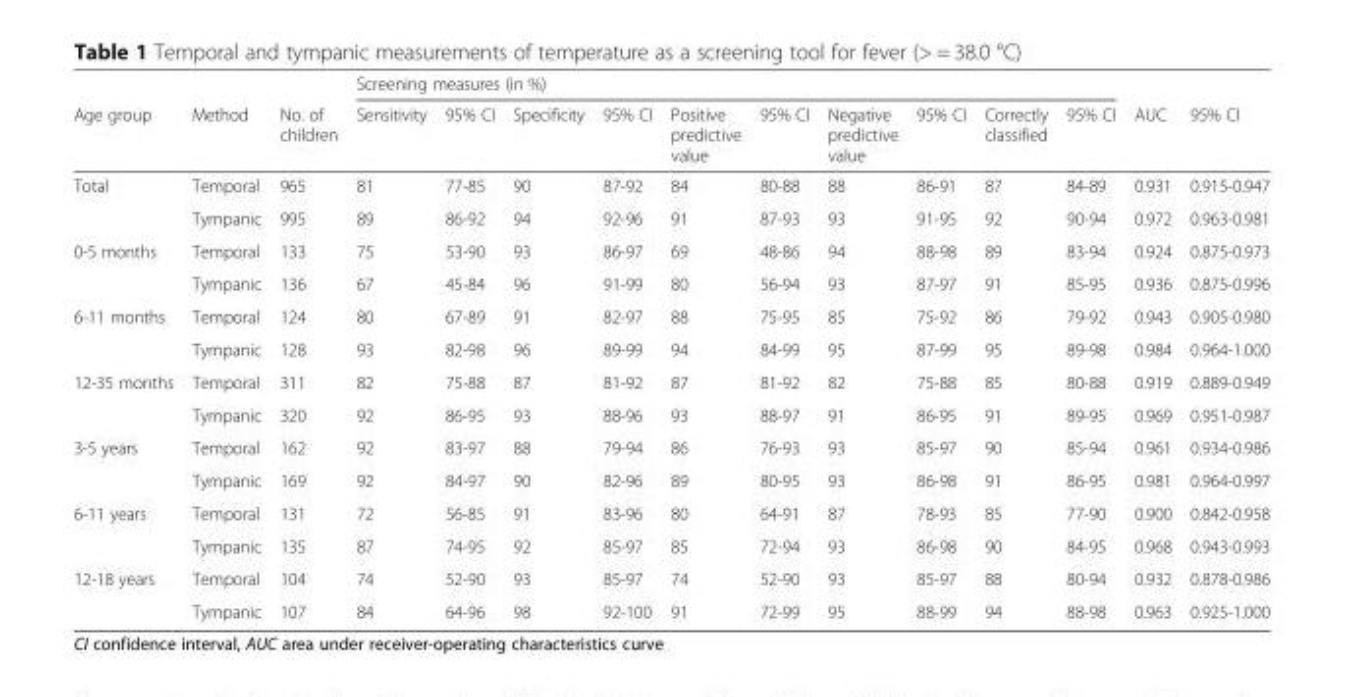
<table><thead><tr><td rowspan="2">Age group</td><td rowspan="2">Method</td><td rowspan="2">No. of children</td><td colspan="10">Screening measures (in %)</td><td rowspan="2">AUC</td><td rowspan="2">95% CI</td></tr><tr><td>Sensitivity</td><td>95% CI</td><td>Specificity</td><td>95% CI</td><td>Positive predictive value</td><td>95% CI</td><td>Negative predictive value</td><td>95% CI</td><td>Correctly classified</td><td>95% CI</td></tr></thead><tbody><tr><td rowspan="2">Total</td><td>Temporal</td><td>965</td><td>81</td><td>77-85</td><td>90</td><td>87-92</td><td>84</td><td>80-88</td><td>88</td><td>86-91</td><td>87</td><td>84-89</td><td>0.931</td><td>0.915-0.947</td></tr><tr><td>Tympanic</td><td>995</td><td>89</td><td>86-92</td><td>94</td><td>92-96</td><td>91</td><td>87-93</td><td>93</td><td>91-95</td><td>92</td><td>90-94</td><td>0.972</td><td>0.963-0.981</td></tr><tr><td rowspan="2">0-5 months</td><td>Temporal</td><td>133</td><td>75</td><td>53-90</td><td>93</td><td>86-97</td><td>69</td><td>48-86</td><td>94</td><td>88-98</td><td>89</td><td>83-94</td><td>0.924</td><td>0.875-0.973</td></tr><tr><td>Tympanic</td><td>136</td><td>67</td><td>45-84</td><td>96</td><td>91-99</td><td>80</td><td>56-94</td><td>93</td><td>87-97</td><td>91</td><td>85-95</td><td>0.936</td><td>0.875-0.996</td></tr><tr><td rowspan="2">6-11 months</td><td>Temporal</td><td>124</td><td>80</td><td>67-89</td><td>91</td><td>82-97</td><td>88</td><td>75-95</td><td>85</td><td>75-92</td><td>86</td><td>79-92</td><td>0.943</td><td>0.905-0.980</td></tr><tr><td>Tympanic</td><td>128</td><td>93</td><td>82-98</td><td>96</td><td>89-99</td><td>94</td><td>84-99</td><td>95</td><td>87-99</td><td>95</td><td>89-98</td><td>0.984</td><td>0.964-1.000</td></tr><tr><td rowspan="2">12-35 months</td><td>Temporal</td><td>311</td><td>82</td><td>75-88</td><td>87</td><td>81-92</td><td>87</td><td>81-92</td><td>82</td><td>75-88</td><td>85</td><td>80-88</td><td>0.919</td><td>0.889-0.949</td></tr><tr><td>Tympanic</td><td>320</td><td>92</td><td>86-95</td><td>93</td><td>88-96</td><td>93</td><td>88-97</td><td>91</td><td>86-95</td><td>91</td><td>89-95</td><td>0.969</td><td>0.951-0.987</td></tr><tr><td rowspan="2">3-5 years</td><td>Temporal</td><td>162</td><td>92</td><td>83-97</td><td>88</td><td>79-94</td><td>86</td><td>76-93</td><td>93</td><td>85-97</td><td>90</td><td>85-94</td><td>0.961</td><td>0.934-0.986</td></tr><tr><td>Tympanic</td><td>169</td><td>92</td><td>84-97</td><td>90</td><td>82-96</td><td>89</td><td>80-95</td><td>93</td><td>86-98</td><td>91</td><td>86-95</td><td>0.981</td><td>0.964-0.997</td></tr><tr><td rowspan="2">6-11 years</td><td>Temporal</td><td>131</td><td>72</td><td>56-85</td><td>91</td><td>83-96</td><td>80</td><td>64-91</td><td>87</td><td>78-93</td><td>85</td><td>77-90</td><td>0.900</td><td>0.842-0.958</td></tr><tr><td>Tympanic</td><td>135</td><td>87</td><td>74-95</td><td>92</td><td>85-97</td><td>85</td><td>72-94</td><td>93</td><td>86-98</td><td>90</td><td>84-95</td><td>0.968</td><td>0.943-0.993</td></tr><tr><td rowspan="2">12-18 years</td><td>Temporal</td><td>104</td><td>74</td><td>52-90</td><td>93</td><td>85-97</td><td>74</td><td>52-90</td><td>93</td><td>85-97</td><td>88</td><td>80-94</td><td>0.932</td><td>0.878-0.986</td></tr><tr><td>Tympanic</td><td>107</td><td>84</td><td>64-96</td><td>98</td><td>92-100</td><td>91</td><td>72-99</td><td>95</td><td>88-99</td><td>94</td><td>88-98</td><td>0.963</td><td>0.925-1.000</td></tr></tbody></table>